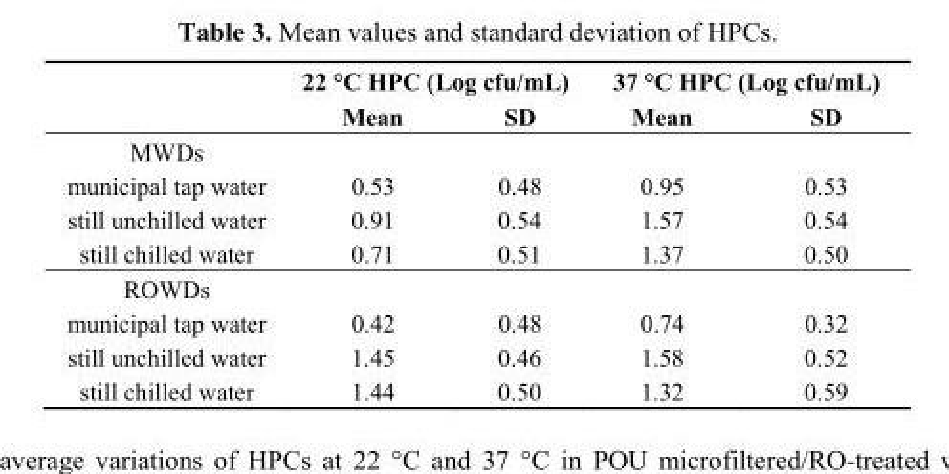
<table><thead><tr><td rowspan="2"></td><td colspan="2">22 °C HPC (Log cfu/mL)</td><td colspan="2">37 °C HPC (Log cfu/mL)</td></tr><tr><td>Mean</td><td>SD</td><td>Mean</td><td>SD</td></tr></thead><tbody><tr><td colspan="5">MWDs</td></tr><tr><td>municipal tap water</td><td>0.53</td><td>0.48</td><td>0.95</td><td>0.53</td></tr><tr><td>still unchilled water</td><td>0.91</td><td>0.54</td><td>1.57</td><td>0.54</td></tr><tr><td>still chilled water</td><td>0.71</td><td>0.51</td><td>1.37</td><td>0.50</td></tr><tr><td colspan="5">ROWDs</td></tr><tr><td>municipal tap water</td><td>0.42</td><td>0.48</td><td>0.74</td><td>0.32</td></tr><tr><td>still unchilled water</td><td>1.45</td><td>0.46</td><td>1.58</td><td>0.52</td></tr><tr><td>still chilled water</td><td>1.44</td><td>0.50</td><td>1.32</td><td>0.59</td></tr></tbody></table>